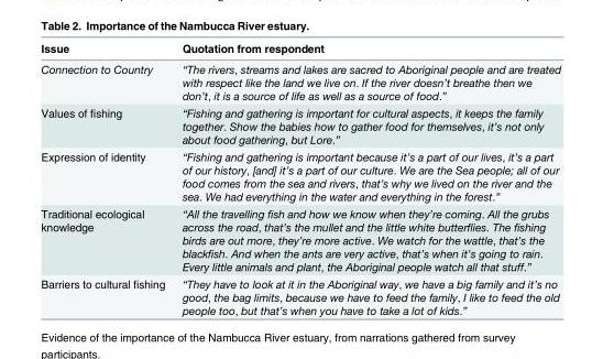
<table><thead><tr><td>Issue</td><td>Quotation from respondent</td></tr></thead><tbody><tr><td>Connection to Country</td><td>“The rivers, streams and lakes are sacred to Aboriginal people and are treated with respect like the land we live on. If the river doesn’t breathe then we don’t, it is a source of life as well as a source of food.”</td></tr><tr><td>Values of fishing</td><td>“Fishing and gathering is important for cultural aspects, it keeps the family together. Show the babies how to gather food for themselves, it’s not only about food gathering, but Lore.”</td></tr><tr><td>Expression of identity</td><td>“Fishing and gathering is important because it’s a part of our lives, it’s a part of our history, [and] it’s a part of our culture. We are the Sea people; all of our food comes from the sea and rivers, that’s why we lived on the river and the sea. We had everything in the water and everything in the forest.”</td></tr><tr><td>Traditional ecological knowledge</td><td>“All the travelling fish and how we know when they’re coming. All the grubs across the road, that’s the mullet and the little white butterflies. The fishing birds are out more, they’re more active. We watch for the wattle, that’s the blackfish. And when the ants are very active, that’s when it’s going to rain. Every little animals and plant, the Aboriginal people watch all that stuff.”</td></tr><tr><td>Barriers to cultural fishing</td><td>“They have to look at it in the Aboriginal way, we have a big family and it’s no good, the bag limits, because we have to feed the family, I like to feed the old people too, but that’s when you have to take a lot of kids.”</td></tr></tbody></table>